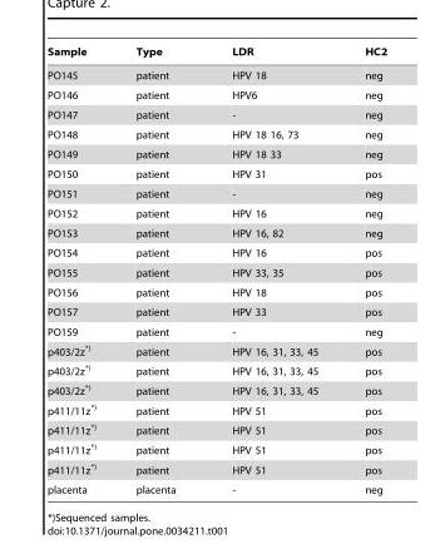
<table><thead><tr><td>Sample</td><td>Type</td><td>LDR</td><td>HC2</td></tr></thead><tbody><tr><td>PO145</td><td>patient</td><td>HPV 18</td><td>neg</td></tr><tr><td>PO146</td><td>patient</td><td>HPV6</td><td>neg</td></tr><tr><td>PO147</td><td>patient</td><td>-</td><td>neg</td></tr><tr><td>PO148</td><td>patient</td><td>HPV 18 16, 73</td><td>neg</td></tr><tr><td>PO149</td><td>patient</td><td>HPV 18 33</td><td>neg</td></tr><tr><td>PO150</td><td>patient</td><td>HPV 31</td><td>pos</td></tr><tr><td>PO151</td><td>patient</td><td>-</td><td>neg</td></tr><tr><td>PO152</td><td>patient</td><td>HPV 16</td><td>neg</td></tr><tr><td>PO153</td><td>patient</td><td>HPV 16, 82</td><td>neg</td></tr><tr><td>PO154</td><td>patient</td><td>HPV 16</td><td>pos</td></tr><tr><td>PO155</td><td>patient</td><td>HPV 33, 35</td><td>pos</td></tr><tr><td>PO156</td><td>patient</td><td>HPV 18</td><td>pos</td></tr><tr><td>PO157</td><td>patient</td><td>HPV 33</td><td>pos</td></tr><tr><td>PO159</td><td>patient</td><td>-</td><td>neg</td></tr><tr><td>p403/2z*)</td><td>patient</td><td>HPV 16, 31, 33, 45</td><td>pos</td></tr><tr><td>p403/2z*)</td><td>patient</td><td>HPV 16, 31, 33, 45</td><td>pos</td></tr><tr><td>p403/2z*)</td><td>patient</td><td>HPV 16, 31, 33, 45</td><td>pos</td></tr><tr><td>p411/11z*)</td><td>patient</td><td>HPV 51</td><td>pos</td></tr><tr><td>p411/11z*)</td><td>patient</td><td>HPV 51</td><td>pos</td></tr><tr><td>p411/11z*)</td><td>patient</td><td>HPV 51</td><td>pos</td></tr><tr><td>p411/11z*)</td><td>patient</td><td>HPV 51</td><td>pos</td></tr><tr><td>placenta</td><td>placenta</td><td>-</td><td>neg</td></tr></tbody></table>